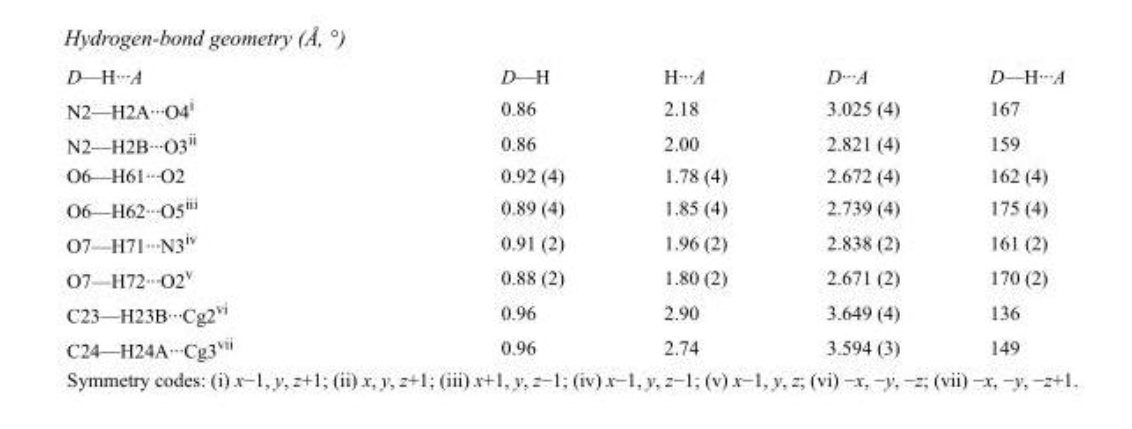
<table><tbody><tr><td>D—H···A</td><td>D—H</td><td>H···A</td><td>D···A</td><td>D—H···A</td></tr><tr><td>N2—H2A···O4<sup>i</sup></td><td>0.86</td><td>2.18</td><td>3.025 (4)</td><td>167</td></tr><tr><td>N2—H2B···O3<sup>ii</sup></td><td>0.86</td><td>2.00</td><td>2.821 (4)</td><td>159</td></tr><tr><td>O6—H61···O2</td><td>0.92 (4)</td><td>1.78 (4)</td><td>2.672 (4)</td><td>162 (4)</td></tr><tr><td>O6—H62···O5<sup>iii</sup></td><td>0.89 (4)</td><td>1.85 (4)</td><td>2.739 (4)</td><td>175 (4)</td></tr><tr><td>O7—H71···N3<sup>iv</sup></td><td>0.91 (2)</td><td>1.96 (2)</td><td>2.838 (2)</td><td>161 (2)</td></tr><tr><td>O7—H72···O2<sup>v</sup></td><td>0.88 (2)</td><td>1.80 (2)</td><td>2.671 (2)</td><td>170 (2)</td></tr><tr><td>C23—H23B···Cg2<sup>vi</sup></td><td>0.96</td><td>2.90</td><td>3.649 (4)</td><td>136</td></tr><tr><td>C24—H24A···Cg3<sup>vii</sup></td><td>0.96</td><td>2.74</td><td>3.594 (3)</td><td>149</td></tr></tbody></table>